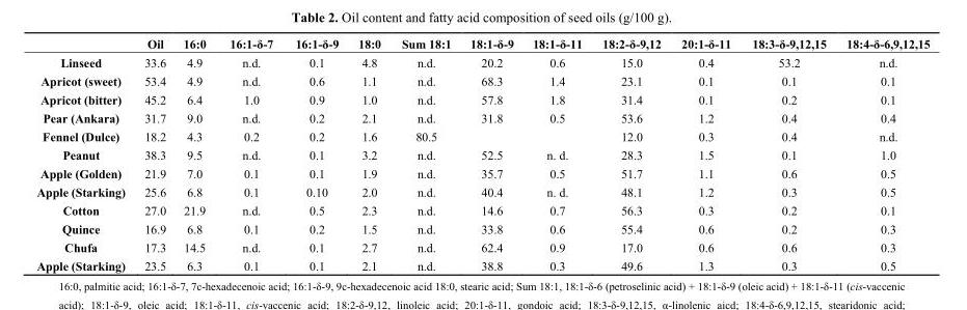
<table><thead><tr><td></td><td>Oil</td><td>16:0</td><td>16:1-δ-7</td><td>16:1-δ-9</td><td>18:0</td><td>Sum 18:1</td><td>18:1-δ-9</td><td>18:1-δ-11</td><td>18:2-δ-9,12</td><td>20:1-δ-11</td><td>18:3-δ-9,12,15</td><td>18:4-δ-6,9,12,15</td></tr></thead><tbody><tr><td>Linseed</td><td>33.6</td><td>4.9</td><td>n.d.</td><td>0.1</td><td>4.8</td><td>n.d.</td><td>20.2</td><td>0.6</td><td>15.0</td><td>0.4</td><td>53.2</td><td>n.d.</td></tr><tr><td>Apricot (sweet)</td><td>53.4</td><td>4.9</td><td>n.d.</td><td>0.6</td><td>1.1</td><td>n.d.</td><td>68.3</td><td>1.4</td><td>23.1</td><td>0.1</td><td>0.1</td><td>0.1</td></tr><tr><td>Apricot (bitter)</td><td>45.2</td><td>6.4</td><td>1.0</td><td>0.9</td><td>1.0</td><td>n.d.</td><td>57.8</td><td>1.8</td><td>31.4</td><td>0.1</td><td>0.2</td><td>0.1</td></tr><tr><td>Pear (Ankara)</td><td>31.7</td><td>9.0</td><td>n.d.</td><td>0.2</td><td>2.1</td><td>n.d.</td><td>31.8</td><td>0.5</td><td>53.6</td><td>1.2</td><td>0.4</td><td>0.4</td></tr><tr><td>Fennel (Dulce)</td><td>18.2</td><td>4.3</td><td>0.2</td><td>0.2</td><td>1.6</td><td>80.5</td><td></td><td></td><td>12.0</td><td>0.3</td><td>0.4</td><td>n.d.</td></tr><tr><td>Peanut</td><td>38.3</td><td>9.5</td><td>n.d.</td><td>0.1</td><td>3.2</td><td>n.d.</td><td>52.5</td><td>n. d.</td><td>28.3</td><td>1.5</td><td>0.1</td><td>1.0</td></tr><tr><td>Apple (Golden)</td><td>21.9</td><td>7.0</td><td>0.1</td><td>0.1</td><td>1.9</td><td>n.d.</td><td>35.7</td><td>0.5</td><td>51.7</td><td>1.1</td><td>0.6</td><td>0.5</td></tr><tr><td>Apple (Starking)</td><td>25.6</td><td>6.8</td><td>0.1</td><td>0.10</td><td>2.0</td><td>n.d.</td><td>40.4</td><td>n. d.</td><td>48.1</td><td>1.2</td><td>0.3</td><td>0.5</td></tr><tr><td>Cotton</td><td>27.0</td><td>21.9</td><td>n.d.</td><td>0.5</td><td>2.3</td><td>n.d.</td><td>14.6</td><td>0.7</td><td>56.3</td><td>0.3</td><td>0.2</td><td>0.1</td></tr><tr><td>Quince</td><td>16.9</td><td>6.8</td><td>0.1</td><td>0.2</td><td>1.5</td><td>n.d.</td><td>33.8</td><td>0.6</td><td>55.4</td><td>0.6</td><td>0.2</td><td>0.3</td></tr><tr><td>Chufa</td><td>17.3</td><td>14.5</td><td>n.d.</td><td>0.1</td><td>2.7</td><td>n.d.</td><td>62.4</td><td>0.9</td><td>17.0</td><td>0.6</td><td>0.6</td><td>0.3</td></tr><tr><td>Apple (Starking)</td><td>23.5</td><td>6.3</td><td>0.1</td><td>0.1</td><td>2.1</td><td>n.d.</td><td>38.8</td><td>0.3</td><td>49.6</td><td>1.3</td><td>0.3</td><td>0.5</td></tr></tbody></table>